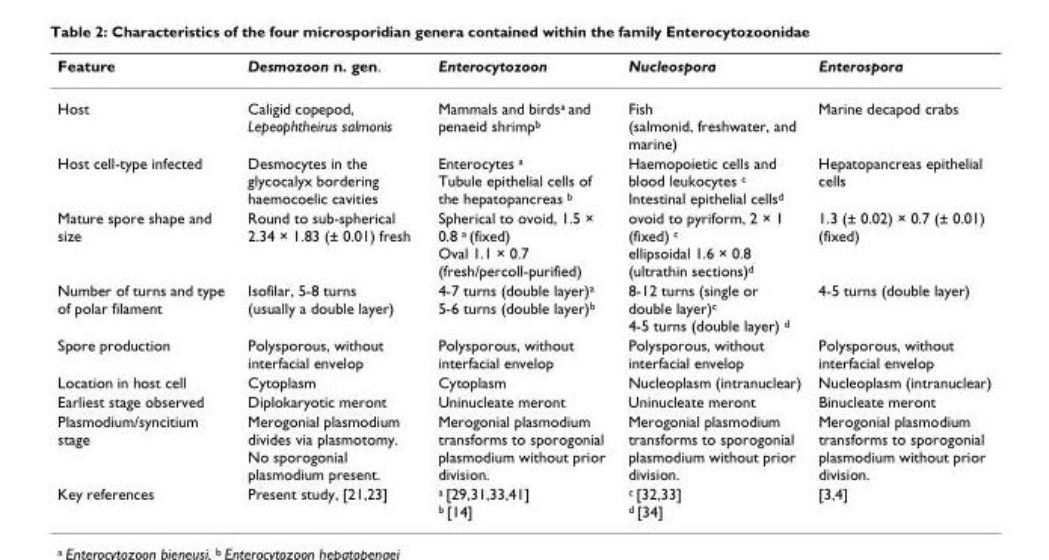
<table><thead><tr><td>Feature</td><td>Desmozoon n. gen.</td><td>Enterocytozoon</td><td>Nucleospora</td><td>Enterospora</td></tr></thead><tbody><tr><td>Host</td><td>Caligid copepod, Lepeophtheirus salmonis</td><td>Mammals and birds<sup>a</sup> and penaeid shrimp<sup>b</sup></td><td>Fish (salmonid, freshwater, and marine)</td><td>Marine decapod crabs</td></tr><tr><td>Host cell-type infected</td><td>Desmocytes in the glycocalyx bordering haemocoelic cavities</td><td>Enterocytes <sup>a</sup> Tubule epithelial cells of the hepatopancreas <sup>b</sup></td><td>Haemopoietic cells and blood leukocytes <sup>c</sup> Intestinal epithelial cells<sup>d</sup></td><td>Hepatopancreas epithelial cells</td></tr><tr><td>Mature spore shape and size</td><td>Round to sub-spherical 2.34 × 1.83 (± 0.01) fresh</td><td>Spherical to ovoid, 1.5 × 0.8 <sup>a</sup> (fixed) Oval 1.1 × 0.7 (fresh/percoll-purified)</td><td>ovoid to pyriform, 2 × 1 (fixed) <sup>c</sup> ellipsoidal 1.6 × 0.8 (ultrathin sections)<sup>d</sup></td><td>1.3 (± 0.02) × 0.7 (± 0.01) (fixed)</td></tr><tr><td>Number of turns and type of polar filament</td><td>Isofilar, 5-8 turns (usually a double layer)</td><td>4-7 turns (double layer)<sup>a</sup> 5-6 turns (double layer)<sup>b</sup></td><td>8-12 turns (single or double layer)<sup>c</sup> 4-5 turns (double layer) <sup>d</sup></td><td>4-5 turns (double layer)</td></tr><tr><td>Spore production</td><td>Polysporous, without interfacial envelop</td><td>Polysporous, without interfacial envelop</td><td>Polysporous, without interfacial envelop</td><td>Polysporous, without interfacial envelop</td></tr><tr><td>Location in host cell</td><td>Cytoplasm</td><td>Cytoplasm</td><td>Nucleoplasm (intranuclear)</td><td>Nucleoplasm (intranuclear)</td></tr><tr><td>Earliest stage observed</td><td>Diplokaryotic meront</td><td>Uninucleate meront</td><td>Uninucleate meront</td><td>Binucleate meront</td></tr><tr><td>Plasmodium/syncitium stage</td><td>Merogonial plasmodium divides via plasmotomy. No sporogonial plasmodium present.</td><td>Merogonial plasmodium transforms to sporogonial plasmodium without prior division.</td><td>Merogonial plasmodium transforms to sporogonial plasmodium without prior division.</td><td>Merogonial plasmodium transforms to sporogonial plasmodium without prior division.</td></tr><tr><td>Key references</td><td>Present study, [21,23]</td><td>a [29,31,33,41]</td><td>c [32,33]</td><td>[3,4]</td></tr></tbody></table>